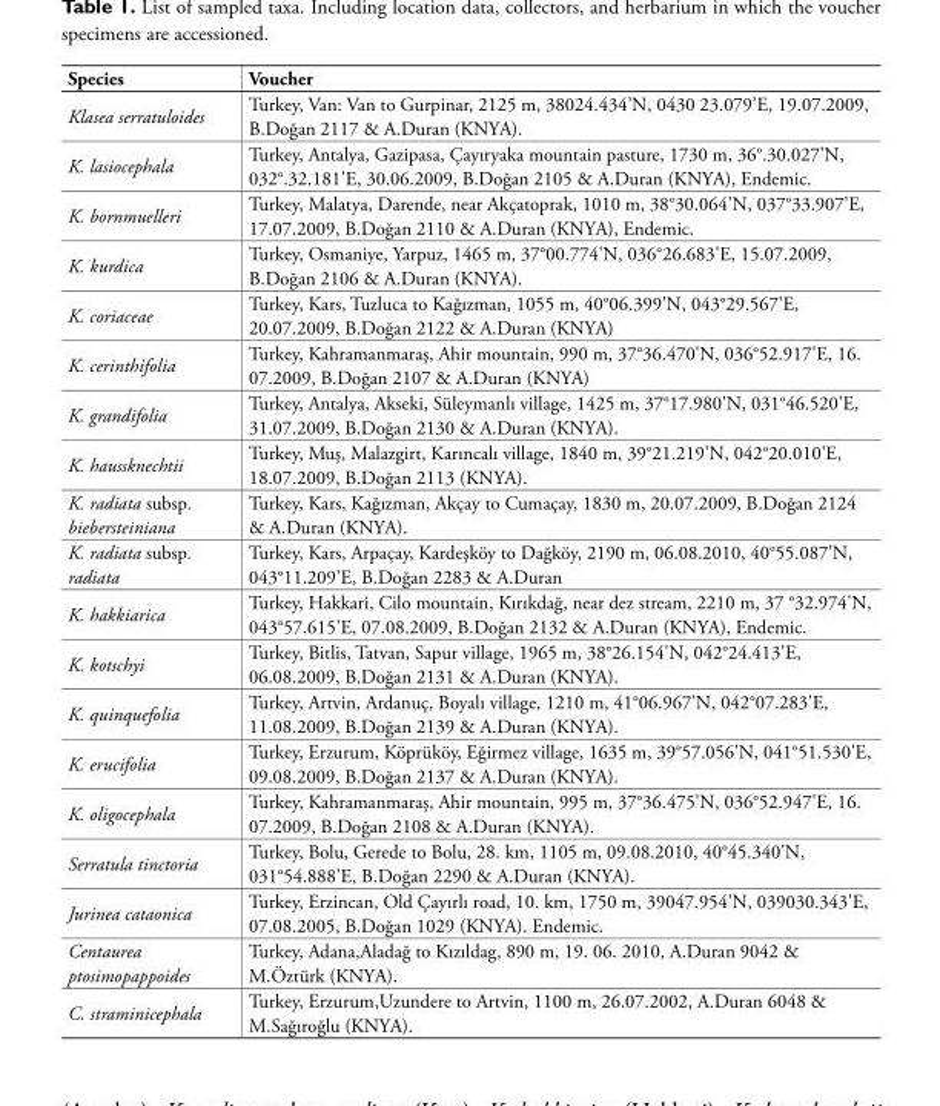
<table><thead><tr><td>Species</td><td>Voucher</td></tr></thead><tbody><tr><td>Klasea serratuloides</td><td>Turkey, Van: Van to Gurpinar, 2125 m, 38°24.434’N, 043° 23.079’E, 19.07.2009, B.Doğan 2117 &amp; A.Duran (KNYA).</td></tr><tr><td>K. lasiocephala</td><td>Turkey, Antalya, Gazipasa, Çayıryaka mountain pasture, 1730 m, 36°.30.027&#x27;N, 032°.32.181&#x27;E, 30.06.2009, B.Doğan 2105 &amp; A.Duran (KNYA), Endemic.</td></tr><tr><td>K. bornmuelleri</td><td>Turkey, Malatya, Darende, near Akçatoprak, 1010 m, 38°30.064&#x27;N, 037°33.907&#x27;E, 17.07.2009, B.Doğan 2110 &amp; A.Duran (KNYA), Endemic.</td></tr><tr><td>K. kurdica</td><td>Turkey, Osmaniye, Yarpuz, 1465 m, 37°00.774&#x27;N, 036°26.683&#x27;E, 15.07.2009, B.Doğan 2106 &amp; A.Duran (KNYA).</td></tr><tr><td>K. coriaceae</td><td>Turkey, Kars, Tuzluca to Kağızman, 1055 m, 40°06.399&#x27;N, 043°29.567&#x27;E, 20.07.2009, B.Doğan 2122 &amp; A.Duran (KNYA)</td></tr><tr><td>K. cerinthifolia</td><td>Turkey, Kahramanmaraş, Ahir mountain, 990 m, 37°36.470&#x27;N, 036°52.917&#x27;E, 16. 07.2009, B.Doğan 2107 &amp; A.Duran (KNYA)</td></tr><tr><td>K. grandifolia</td><td>Turkey, Antalya, Akseki, Süleymanlı village, 1425 m, 37°17.980&#x27;N, 031°46.520&#x27;E, 31.07.2009, B.Doğan 2130 &amp; A.Duran (KNYA).</td></tr><tr><td>K. haussknechtii</td><td>Turkey, Muş, Malazgirt, Karıncalı village, 1840 m, 39°21.219&#x27;N, 042°20.010&#x27;E, 18.07.2009, B.Doğan 2113 (KNYA).</td></tr><tr><td>K. radiata subsp. biebersteiniana</td><td>Turkey, Kars, Kağızman, Akçay to Cumaçay, 1830 m, 20.07.2009, B.Doğan 2124 &amp; A.Duran (KNYA).</td></tr><tr><td>K. radiata subsp. radiata</td><td>Turkey, Kars, Arpaçay, Kardeşköy to Dağköy, 2190 m, 06.08.2010, 40°55.087&#x27;N, 043°11.209&#x27;E, B.Doğan 2283 &amp; A.Duran</td></tr><tr><td>K. hakkiarica</td><td>Turkey, Hakkari, Cilo mountain, Kırıkdağ, near dez stream, 2210 m, 37 °32.974&#x27;N, 043°57.615&#x27;E, 07.08.2009, B.Doğan 2132 &amp; A.Duran (KNYA), Endemic.</td></tr><tr><td>K. kotschyi</td><td>Turkey, Bitlis, Tatvan, Sapur village, 1965 m, 38°26.154&#x27;N, 042°24.413&#x27;E, 06.08.2009, B.Doğan 2131 &amp; A.Duran (KNYA).</td></tr><tr><td>K. quinquefolia</td><td>Turkey, Artvin, Ardanuç, Boyalı village, 1210 m, 41°06.967&#x27;N, 042°07.283&#x27;E, 11.08.2009, B.Doğan 2139 &amp; A.Duran (KNYA).</td></tr><tr><td>K. erucifolia</td><td>Turkey, Erzurum, Köprüköy, Eğirmez village, 1635 m, 39°57.056&#x27;N, 041°51.530&#x27;E, 09.08.2009, B.Doğan 2137 &amp; A.Duran (KNYA).</td></tr><tr><td>K. oligocephala</td><td>Turkey, Kahramanmaraş, Ahir mountain, 995 m, 37°36.475&#x27;N, 036°52.947&#x27;E, 16. 07.2009, B.Doğan 2108 &amp; A.Duran (KNYA).</td></tr><tr><td>Serratula tinctoria</td><td>Turkey, Bolu, Gerede to Bolu, 28. km, 1105 m, 09.08.2010, 40°45.340&#x27;N, 031°54.888&#x27;E, B.Doğan 2290 &amp; A.Duran (KNYA).</td></tr><tr><td>Jurinea cataonica</td><td>Turkey, Erzincan, Old Çayırlı road, 10. km, 1750 m, 39°47.954&#x27;N, 039°30.343&#x27;E, 07.08.2005, B.Doğan 1029 (KNYA). Endemic.</td></tr><tr><td>Centaurea ptosimopappoides</td><td>Turkey, Adana,Aladağ to Kızıldag, 890 m, 19. 06. 2010, A.Duran 9042 &amp; M.Öztürk (KNYA).</td></tr><tr><td>C. straminicephala</td><td>Turkey, Erzurum,Uzundere to Artvin, 1100 m, 26.07.2002, A.Duran 6048 &amp; M.Sağıroğlu (KNYA).</td></tr></tbody></table>